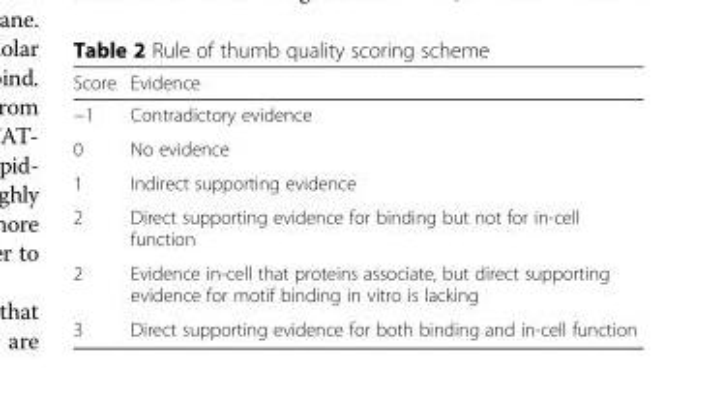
<table><thead><tr><td>Score</td><td>Evidence</td></tr></thead><tbody><tr><td>−1</td><td>Contradictory evidence</td></tr><tr><td>0</td><td>No evidence</td></tr><tr><td>1</td><td>Indirect supporting evidence</td></tr><tr><td>2</td><td>Direct supporting evidence for binding but not for in-cell function</td></tr><tr><td>2</td><td>Evidence in-cell that proteins associate, but direct supporting evidence for motif binding in vitro is lacking</td></tr><tr><td>3</td><td>Direct supporting evidence for both binding and in-cell function</td></tr></tbody></table>